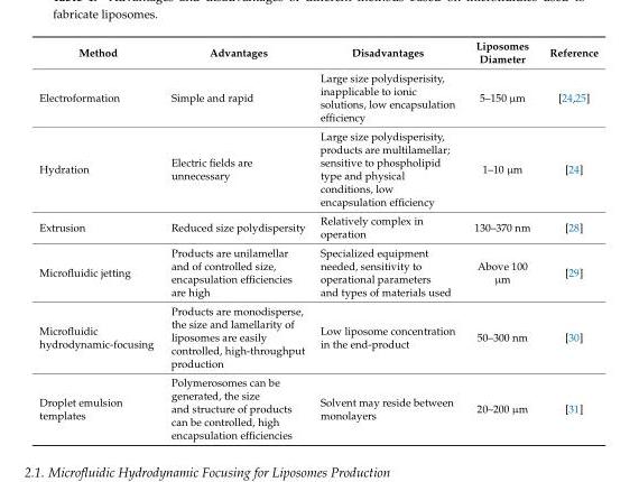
<table><thead><tr><td>Method</td><td>Advantages</td><td>Disadvantages</td><td>Liposomes Diameter</td><td>Reference</td></tr></thead><tbody><tr><td>Electroformation</td><td>Simple and rapid</td><td>Large size polydisperisity, inapplicable to ionic solutions, low encapsulation efficiency</td><td>5–150 µm</td><td>[24,25]</td></tr><tr><td>Hydration</td><td>Electric fields are unnecessary</td><td>Large size polydisperisity, products are multilamellar; sensitive to phospholipid type and physical conditions, low encapsulation efficiency</td><td>1–10 µm</td><td>[24]</td></tr><tr><td>Extrusion</td><td>Reduced size polydispersity</td><td>Relatively complex in operation</td><td>130–370 nm</td><td>[28]</td></tr><tr><td>Microfluidic jetting</td><td>Products are unilamellar and of controlled size, encapsulation efficiencies are high</td><td>Specialized equipment needed, sensitivity to operational parameters and types of materials used</td><td>Above 100 µm</td><td>[29]</td></tr><tr><td>Microfluidic hydrodynamic-focusing</td><td>Products are monodisperse, the size and lamellarity of liposomes are easily controlled, high-throughput production</td><td>Low liposome concentration in the end-product</td><td>50–300 nm</td><td>[30]</td></tr><tr><td>Droplet emulsion templates</td><td>Polymerosomes can be generated, the size and structure of products can be controlled, high encapsulation efficiencies</td><td>Solvent may reside between monolayers</td><td>20–200 µm</td><td>[31]</td></tr></tbody></table>